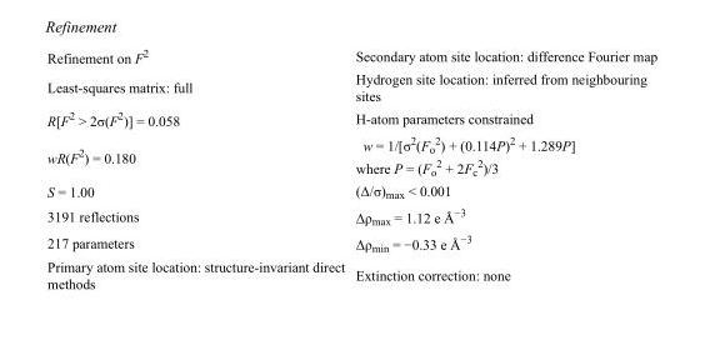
<table><tbody><tr><td>Refinement on F2</td><td>Secondary atom site location: difference Fourier map</td></tr><tr><td>Least-squares matrix: full</td><td>Hydrogen site location: inferred from neighbouring sites</td></tr><tr><td>R[F2 &gt; 2σ(F2)] = 0.058</td><td>H-atom parameters constrained</td></tr><tr><td>wR(F2) = 0.180</td><td>w = 1/[σ2(Fo 2) + (0.114P)2 + 1.289P] where P = (Fo 2 + 2Fc 2)/3</td></tr><tr><td>S = 1.00</td><td>(Δ/σ)max &lt; 0.001</td></tr><tr><td>3191 reflections</td><td>Δρmax = 1.12 e Å−3</td></tr><tr><td>217 parameters</td><td>Δρmin = −0.33 e Å−3</td></tr><tr><td>Primary atom site location: structure-invariant direct methods</td><td>Extinction correction: none</td></tr></tbody></table>